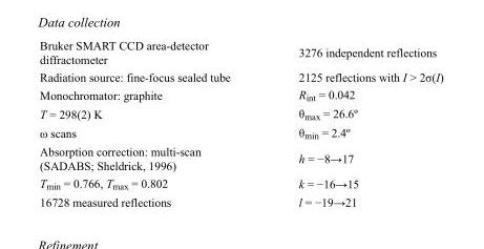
<table><tbody><tr><td>Bruker SMART CCD area-detector diffractometer</td><td>3276 independent reflections</td></tr><tr><td>Radiation source: fine-focus sealed tube</td><td>2125 reflections with I &gt; 2σ(I)</td></tr><tr><td>Monochromator: graphite</td><td>R<sub>int</sub> = 0.042</td></tr><tr><td>T = 298(2) K</td><td>θ<sub>max</sub> = 26.6º</td></tr><tr><td>ω scans</td><td>θ<sub>min</sub> = 2.4º</td></tr><tr><td>Absorption correction: multi-scan (SADABS; Sheldrick, 1996)</td><td>h = −8→17</td></tr><tr><td>T<sub>min</sub> = 0.766, T<sub>max</sub> = 0.802</td><td>k = −16→15</td></tr><tr><td>16728 measured reflections</td><td>l = −19→21</td></tr></tbody></table>